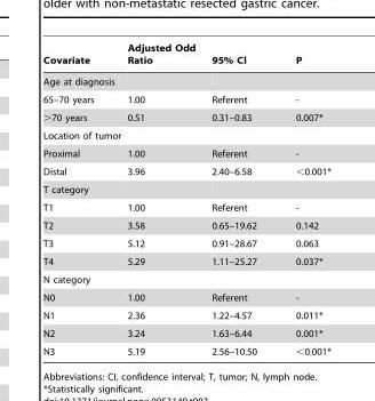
<table><thead><tr><td>Covariate</td><td>Adjusted Odd Ratio</td><td>95% Cl</td><td>P</td></tr></thead><tbody><tr><td colspan="4">Age at diagnosis</td></tr><tr><td>65–70 years</td><td>1.00</td><td>Referent</td><td>-</td></tr><tr><td>&gt;70 years</td><td>0.51</td><td>0.31–0.83</td><td>0.007*</td></tr><tr><td colspan="4">Location of tumor</td></tr><tr><td>Proximal</td><td>1.00</td><td>Referent</td><td>-</td></tr><tr><td>Distal</td><td>3.96</td><td>2.40–6.58</td><td>&lt;0.001*</td></tr><tr><td colspan="4">T category</td></tr><tr><td>T1</td><td>1.00</td><td>Referent</td><td>-</td></tr><tr><td>T2</td><td>3.58</td><td>0.65–19.62</td><td>0.142</td></tr><tr><td>T3</td><td>5.12</td><td>0.91–28.67</td><td>0.063</td></tr><tr><td>T4</td><td>5.29</td><td>1.11–25.27</td><td>0.037*</td></tr><tr><td colspan="4">N category</td></tr><tr><td>N0</td><td>1.00</td><td>Referent</td><td>-</td></tr><tr><td>N1</td><td>2.36</td><td>1.22–4.57</td><td>0.011*</td></tr><tr><td>N2</td><td>3.24</td><td>1.63–6.44</td><td>0.001*</td></tr><tr><td>N3</td><td>5.19</td><td>2.56–10.50</td><td>&lt;0.001*</td></tr></tbody></table>